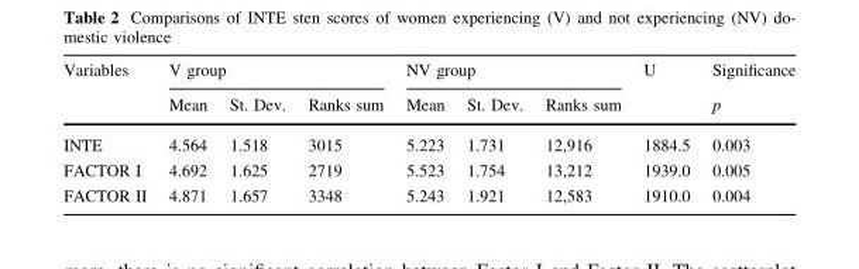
<table><thead><tr><td rowspan="2">Variables</td><td colspan="3">V group</td><td colspan="3">NV group</td><td rowspan="2">U</td><td rowspan="2">Significance p</td></tr><tr><td>Mean</td><td>St. Dev.</td><td>Ranks sum</td><td>Mean</td><td>St. Dev.</td><td>Ranks sum</td></tr></thead><tbody><tr><td>INTE</td><td>4.564</td><td>1.518</td><td>3015</td><td>5.223</td><td>1.731</td><td>12,916</td><td>1884.5</td><td>0.003</td></tr><tr><td>FACTOR I</td><td>4.692</td><td>1.625</td><td>2719</td><td>5.523</td><td>1.754</td><td>13,212</td><td>1939.0</td><td>0.005</td></tr><tr><td>FACTOR II</td><td>4.871</td><td>1.657</td><td>3348</td><td>5.243</td><td>1.921</td><td>12,583</td><td>1910.0</td><td>0.004</td></tr></tbody></table>